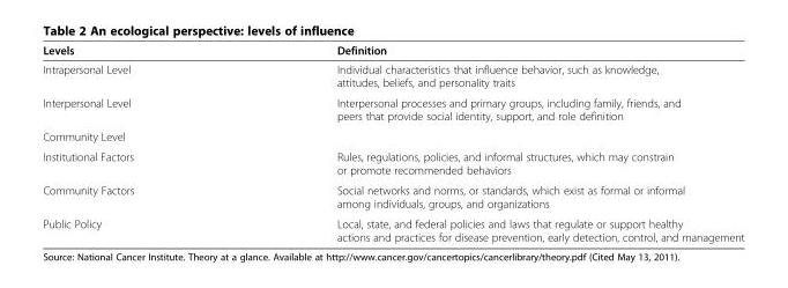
<table><thead><tr><td>Levels</td><td>Definition</td></tr></thead><tbody><tr><td>Intrapersonal Level</td><td>Individual characteristics that influence behavior, such as knowledge, attitudes, beliefs, and personality traits</td></tr><tr><td>Interpersonal Level</td><td>Interpersonal processes and primary groups, including family, friends, and peers that provide social identity, support, and role definition</td></tr><tr><td colspan="2">Community Level</td></tr><tr><td>Institutional Factors</td><td>Rules, regulations, policies, and informal structures, which may constrain or promote recommended behaviors</td></tr><tr><td>Community Factors</td><td>Social networks and norms, or standards, which exist as formal or informal among individuals, groups, and organizations</td></tr><tr><td>Public Policy</td><td>Local, state, and federal policies and laws that regulate or support healthy actions and practices for disease prevention, early detection, control, and management</td></tr></tbody></table>